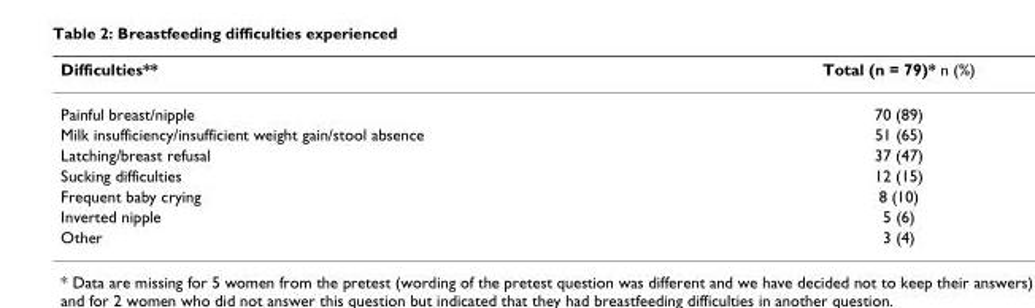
<table><thead><tr><td>Difficulties**</td><td>Total (n = 79)* n (%)</td></tr></thead><tbody><tr><td>Painful breast/nipple</td><td>70 (89)</td></tr><tr><td>Milk insufficiency/insufficient weight gain/stool absence</td><td>51 (65)</td></tr><tr><td>Latching/breast refusal</td><td>37 (47)</td></tr><tr><td>Sucking difficulties</td><td>12 (15)</td></tr><tr><td>Frequent baby crying</td><td>8 (10)</td></tr><tr><td>Inverted nipple</td><td>5 (6)</td></tr><tr><td>Other</td><td>3 (4)</td></tr></tbody></table>